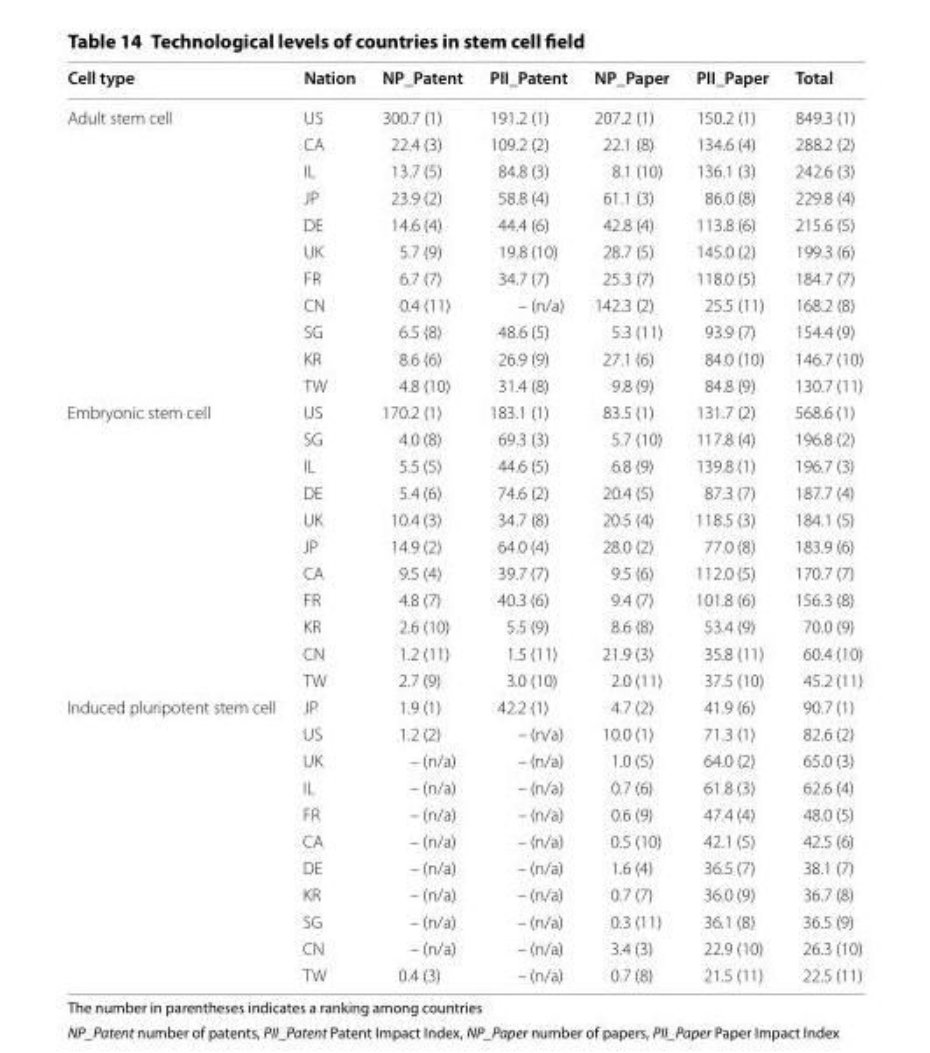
<table><thead><tr><td>Cell type</td><td>Nation</td><td>NP_Patent</td><td>PII_Patent</td><td>NP_Paper</td><td>PII_Paper</td><td>Total</td></tr></thead><tbody><tr><td rowspan="11">Adult stem cell</td><td>US</td><td>300.7 (1)</td><td>191.2 (1)</td><td>207.2 (1)</td><td>150.2 (1)</td><td>849.3 (1)</td></tr><tr><td>CA</td><td>22.4 (3)</td><td>109.2 (2)</td><td>22.1 (8)</td><td>134.6 (4)</td><td>288.2 (2)</td></tr><tr><td>IL</td><td>13.7 (5)</td><td>84.8 (3)</td><td>8.1 (10)</td><td>136.1 (3)</td><td>242.6 (3)</td></tr><tr><td>JP</td><td>23.9 (2)</td><td>58.8 (4)</td><td>61.1 (3)</td><td>86.0 (8)</td><td>229.8 (4)</td></tr><tr><td>DE</td><td>14.6 (4)</td><td>44.4 (6)</td><td>42.8 (4)</td><td>113.8 (6)</td><td>215.6 (5)</td></tr><tr><td>UK</td><td>5.7 (9)</td><td>19.8 (10)</td><td>28.7 (5)</td><td>145.0 (2)</td><td>199.3 (6)</td></tr><tr><td>FR</td><td>6.7 (7)</td><td>34.7 (7)</td><td>25.3 (7)</td><td>118.0 (5)</td><td>184.7 (7)</td></tr><tr><td>CN</td><td>0.4 (11)</td><td>– (n/a)</td><td>142.3 (2)</td><td>25.5 (11)</td><td>168.2 (8)</td></tr><tr><td>SG</td><td>6.5 (8)</td><td>48.6 (5)</td><td>5.3 (11)</td><td>93.9 (7)</td><td>154.4 (9)</td></tr><tr><td>KR</td><td>8.6 (6)</td><td>26.9 (9)</td><td>27.1 (6)</td><td>84.0 (10)</td><td>146.7 (10)</td></tr><tr><td>TW</td><td>4.8 (10)</td><td>31.4 (8)</td><td>9.8 (9)</td><td>84.8 (9)</td><td>130.7 (11)</td></tr><tr><td rowspan="11">Embryonic stem cell</td><td>US</td><td>170.2 (1)</td><td>183.1 (1)</td><td>83.5 (1)</td><td>131.7 (2)</td><td>568.6 (1)</td></tr><tr><td>SG</td><td>4.0 (8)</td><td>69.3 (3)</td><td>5.7 (10)</td><td>117.8 (4)</td><td>196.8 (2)</td></tr><tr><td>IL</td><td>5.5 (5)</td><td>44.6 (5)</td><td>6.8 (9)</td><td>139.8 (1)</td><td>196.7 (3)</td></tr><tr><td>DE</td><td>5.4 (6)</td><td>74.6 (2)</td><td>20.4 (5)</td><td>87.3 (7)</td><td>187.7 (4)</td></tr><tr><td>UK</td><td>10.4 (3)</td><td>34.7 (8)</td><td>20.5 (4)</td><td>118.5 (3)</td><td>184.1 (5)</td></tr><tr><td>JP</td><td>14.9 (2)</td><td>64.0 (4)</td><td>28.0 (2)</td><td>77.0 (8)</td><td>183.9 (6)</td></tr><tr><td>CA</td><td>9.5 (4)</td><td>39.7 (7)</td><td>9.5 (6)</td><td>112.0 (5)</td><td>170.7 (7)</td></tr><tr><td>FR</td><td>4.8 (7)</td><td>40.3 (6)</td><td>9.4 (7)</td><td>101.8 (6)</td><td>156.3 (8)</td></tr><tr><td>KR</td><td>2.6 (10)</td><td>5.5 (9)</td><td>8.6 (8)</td><td>53.4 (9)</td><td>70.0 (9)</td></tr><tr><td>CN</td><td>1.2 (11)</td><td>1.5 (11)</td><td>21.9 (3)</td><td>35.8 (11)</td><td>60.4 (10)</td></tr><tr><td>TW</td><td>2.7 (9)</td><td>3.0 (10)</td><td>2.0 (11)</td><td>37.5 (10)</td><td>45.2 (11)</td></tr><tr><td rowspan="11">Induced pluripotent stem cell</td><td>JP</td><td>1.9 (1)</td><td>42.2 (1)</td><td>4.7 (2)</td><td>41.9 (6)</td><td>90.7 (1)</td></tr><tr><td>US</td><td>1.2 (2)</td><td>– (n/a)</td><td>10.0 (1)</td><td>71.3 (1)</td><td>82.6 (2)</td></tr><tr><td>UK</td><td>– (n/a)</td><td>– (n/a)</td><td>1.0 (5)</td><td>64.0 (2)</td><td>65.0 (3)</td></tr><tr><td>IL</td><td>– (n/a)</td><td>– (n/a)</td><td>0.7 (6)</td><td>61.8 (3)</td><td>62.6 (4)</td></tr><tr><td>FR</td><td>– (n/a)</td><td>– (n/a)</td><td>0.6 (9)</td><td>47.4 (4)</td><td>48.0 (5)</td></tr><tr><td>CA</td><td>– (n/a)</td><td>– (n/a)</td><td>0.5 (10)</td><td>42.1 (5)</td><td>42.5 (6)</td></tr><tr><td>DE</td><td>– (n/a)</td><td>– (n/a)</td><td>1.6 (4)</td><td>36.5 (7)</td><td>38.1 (7)</td></tr><tr><td>KR</td><td>– (n/a)</td><td>– (n/a)</td><td>0.7 (7)</td><td>36.0 (9)</td><td>36.7 (8)</td></tr><tr><td>SG</td><td>– (n/a)</td><td>– (n/a)</td><td>0.3 (11)</td><td>36.1 (8)</td><td>36.5 (9)</td></tr><tr><td>CN</td><td>– (n/a)</td><td>– (n/a)</td><td>3.4 (3)</td><td>22.9 (10)</td><td>26.3 (10)</td></tr><tr><td>TW</td><td>0.4 (3)</td><td>– (n/a)</td><td>0.7 (8)</td><td>21.5 (11)</td><td>22.5 (11)</td></tr></tbody></table>